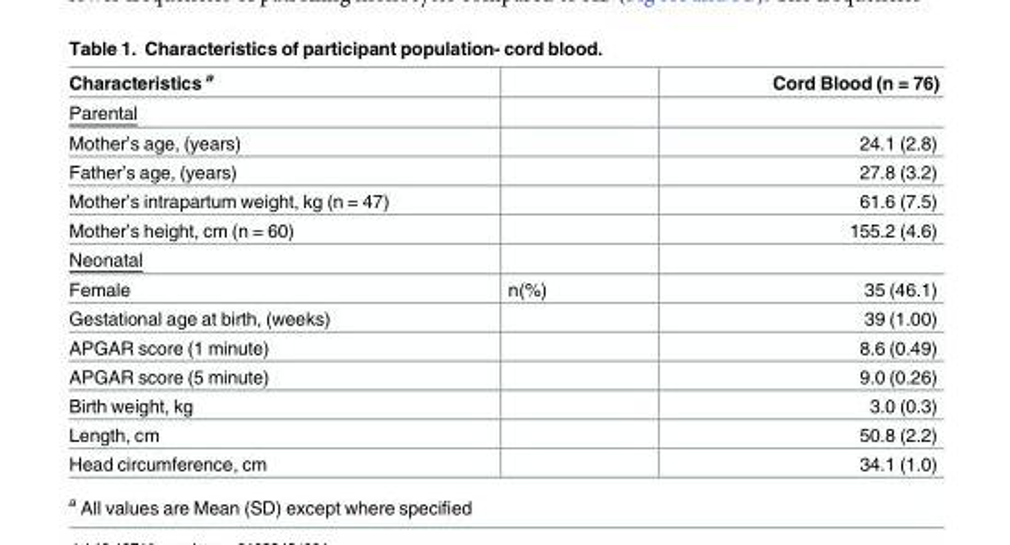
<table><thead><tr><td>Characteristics <sup>a</sup></td><td></td><td>Cord Blood (n = 76)</td></tr></thead><tbody><tr><td colspan="3">Parental</td></tr><tr><td>Mother’s age, (years)</td><td></td><td>24.1 (2.8)</td></tr><tr><td>Father’s age, (years)</td><td></td><td>27.8 (3.2)</td></tr><tr><td>Mother’s intrapartum weight, kg (n = 47)</td><td></td><td>61.6 (7.5)</td></tr><tr><td>Mother’s height, cm (n = 60)</td><td></td><td>155.2 (4.6)</td></tr><tr><td colspan="3">Neonatal</td></tr><tr><td>Female</td><td>n(%)</td><td>35 (46.1)</td></tr><tr><td>Gestational age at birth, (weeks)</td><td></td><td>39 (1.00)</td></tr><tr><td>APGAR score (1 minute)</td><td></td><td>8.6 (0.49)</td></tr><tr><td>APGAR score (5 minute)</td><td></td><td>9.0 (0.26)</td></tr><tr><td>Birth weight, kg</td><td></td><td>3.0 (0.3)</td></tr><tr><td>Length, cm</td><td></td><td>50.8 (2.2)</td></tr><tr><td>Head circumference, cm</td><td></td><td>34.1 (1.0)</td></tr></tbody></table>